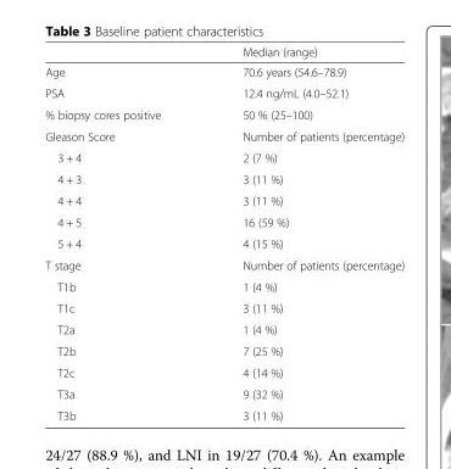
<table><thead><tr><td></td><td>Median (range)</td></tr></thead><tbody><tr><td>Age</td><td>70.6 years (54.6–78.9)</td></tr><tr><td>PSA</td><td>12.4 ng/mL (4.0–52.1)</td></tr><tr><td>% biopsy cores positive</td><td>50 % (25–100)</td></tr><tr><td>Gleason Score</td><td>Number of patients (percentage)</td></tr><tr><td>3 + 4</td><td>2 (7 %)</td></tr><tr><td>4 + 3</td><td>3 (11 %)</td></tr><tr><td>4 + 4</td><td>3 (11 %)</td></tr><tr><td>4 + 5</td><td>16 (59 %)</td></tr><tr><td>5 + 4</td><td>4 (15 %)</td></tr><tr><td>T stage</td><td>Number of patients (percentage)</td></tr><tr><td>T1b</td><td>1 (4 %)</td></tr><tr><td>T1c</td><td>3 (11 %)</td></tr><tr><td>T2a</td><td>1 (4 %)</td></tr><tr><td>T2b</td><td>7 (25 %)</td></tr><tr><td>T2c</td><td>4 (14 %)</td></tr><tr><td>T3a</td><td>9 (32 %)</td></tr><tr><td>T3b</td><td>3 (11 %)</td></tr></tbody></table>